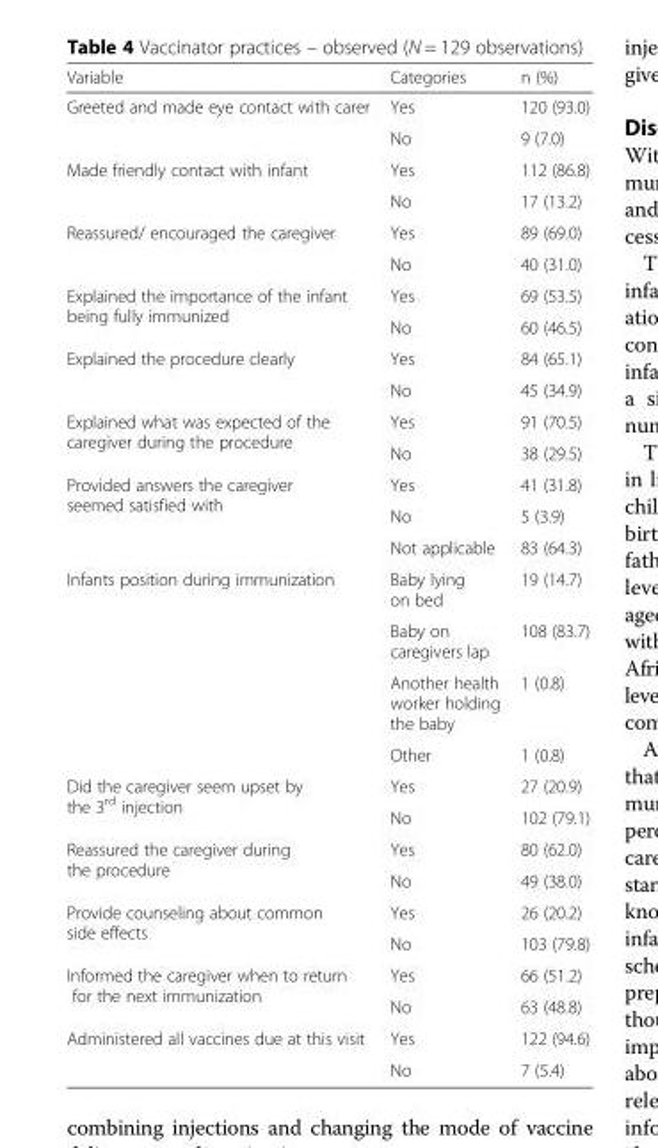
<table><thead><tr><td>Variable</td><td>Categories</td><td>n (%)</td></tr></thead><tbody><tr><td rowspan="2">Greeted and made eye contact with carer</td><td>Yes</td><td>120 (93.0)</td></tr><tr><td>No</td><td>9 (7.0)</td></tr><tr><td rowspan="2">Made friendly contact with infant</td><td>Yes</td><td>112 (86.8)</td></tr><tr><td>No</td><td>17 (13.2)</td></tr><tr><td rowspan="2">Reassured/ encouraged the caregiver</td><td>Yes</td><td>89 (69.0)</td></tr><tr><td>No</td><td>40 (31.0)</td></tr><tr><td rowspan="2">Explained the importance of the infant being fully immunized</td><td>Yes</td><td>69 (53.5)</td></tr><tr><td>No</td><td>60 (46.5)</td></tr><tr><td rowspan="2">Explained the procedure clearly</td><td>Yes</td><td>84 (65.1)</td></tr><tr><td>No</td><td>45 (34.9)</td></tr><tr><td rowspan="2">Explained what was expected of the caregiver during the procedure</td><td>Yes</td><td>91 (70.5)</td></tr><tr><td>No</td><td>38 (29.5)</td></tr><tr><td rowspan="3">Provided answers the caregiver seemed satisfied with</td><td>Yes</td><td>41 (31.8)</td></tr><tr><td>No</td><td>5 (3.9)</td></tr><tr><td>Not applicable</td><td>83 (64.3)</td></tr><tr><td rowspan="4">Infants position during immunization</td><td>Baby lying on bed</td><td>19 (14.7)</td></tr><tr><td>Baby on caregivers lap</td><td>108 (83.7)</td></tr><tr><td>Another health worker holding the baby</td><td>1 (0.8)</td></tr><tr><td>Other</td><td>1 (0.8)</td></tr><tr><td rowspan="2">Did the caregiver seem upset by the 3<sup>rd</sup> injection</td><td>Yes</td><td>27 (20.9)</td></tr><tr><td>No</td><td>102 (79.1)</td></tr><tr><td rowspan="2">Reassured the caregiver during the procedure</td><td>Yes</td><td>80 (62.0)</td></tr><tr><td>No</td><td>49 (38.0)</td></tr><tr><td rowspan="2">Provide counseling about common side effects</td><td>Yes</td><td>26 (20.2)</td></tr><tr><td>No</td><td>103 (79.8)</td></tr><tr><td rowspan="2">Informed the caregiver when to return for the next immunization</td><td>Yes</td><td>66 (51.2)</td></tr><tr><td>No</td><td>63 (48.8)</td></tr><tr><td rowspan="2">Administered all vaccines due at this visit</td><td>Yes</td><td>122 (94.6)</td></tr><tr><td>No</td><td>7 (5.4)</td></tr></tbody></table>